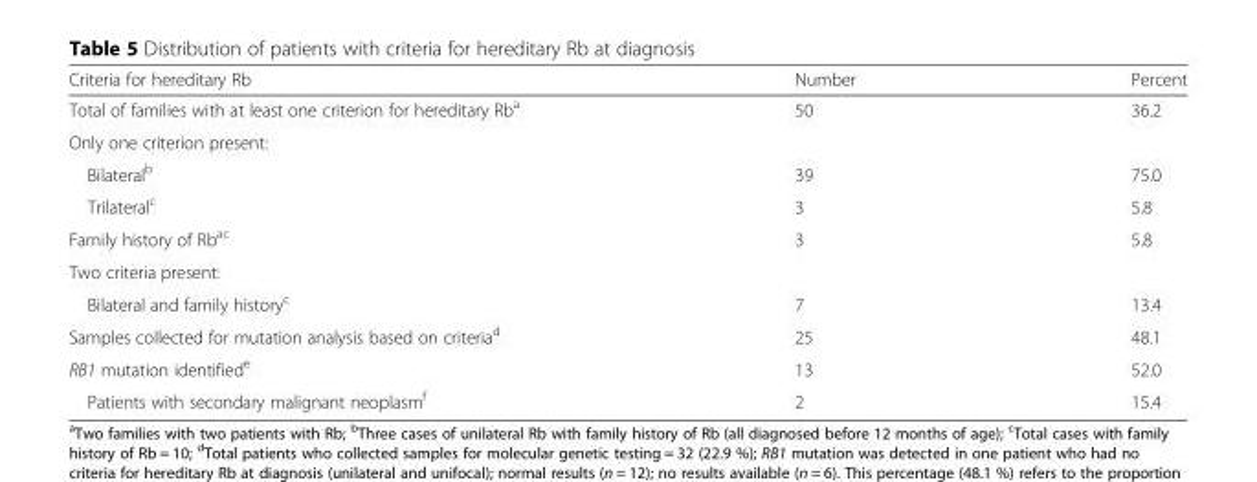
<table><thead><tr><td>Criteria for hereditary Rb</td><td>Number</td><td>Percent</td></tr></thead><tbody><tr><td>Total of families with at least one criterion for hereditary Rb<sup>a</sup></td><td>50</td><td>36.2</td></tr><tr><td colspan="3">Only one criterion present:</td></tr><tr><td>Bilateral<sup>b</sup></td><td>39</td><td>75.0</td></tr><tr><td>Trilateral<sup>c</sup></td><td>3</td><td>5.8</td></tr><tr><td>Family history of Rb<sup>ac</sup></td><td>3</td><td>5.8</td></tr><tr><td colspan="3">Two criteria present:</td></tr><tr><td>Bilateral and family history<sup>c</sup></td><td>7</td><td>13.4</td></tr><tr><td>Samples collected for mutation analysis based on criteria<sup>d</sup></td><td>25</td><td>48.1</td></tr><tr><td>RB1 mutation identified<sup>e</sup></td><td>13</td><td>52.0</td></tr><tr><td>Patients with secondary malignant neoplasm<sup>f</sup></td><td>2</td><td>15.4</td></tr></tbody></table>